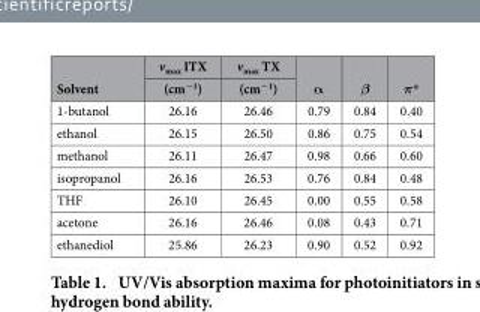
<table><thead><tr><td rowspan="2">Solvent</td><td rowspan="2">v<sub>max</sub> ITX (cm<sup>−1</sup>)</td><td rowspan="2">v<sub>max</sub> TX (cm<sup>−1</sup>)</td><td rowspan="2">α</td><td rowspan="2">β</td><td rowspan="2">π*</td></tr><tr></tr></thead><tbody><tr><td>1-butanol</td><td>26.16</td><td>26.46</td><td>0.79</td><td>0.84</td><td>0.40</td></tr><tr><td>ethanol</td><td>26.15</td><td>26.50</td><td>0.86</td><td>0.75</td><td>0.54</td></tr><tr><td>methanol</td><td>26.11</td><td>26.47</td><td>0.98</td><td>0.66</td><td>0.60</td></tr><tr><td>isopropanol</td><td>26.16</td><td>26.53</td><td>0.76</td><td>0.84</td><td>0.48</td></tr><tr><td>THF</td><td>26.10</td><td>26.45</td><td>0.00</td><td>0.55</td><td>0.58</td></tr><tr><td>acetone</td><td>26.16</td><td>26.46</td><td>0.08</td><td>0.43</td><td>0.71</td></tr><tr><td>ethanediol</td><td>25.86</td><td>26.23</td><td>0.90</td><td>0.52</td><td>0.92</td></tr></tbody></table>